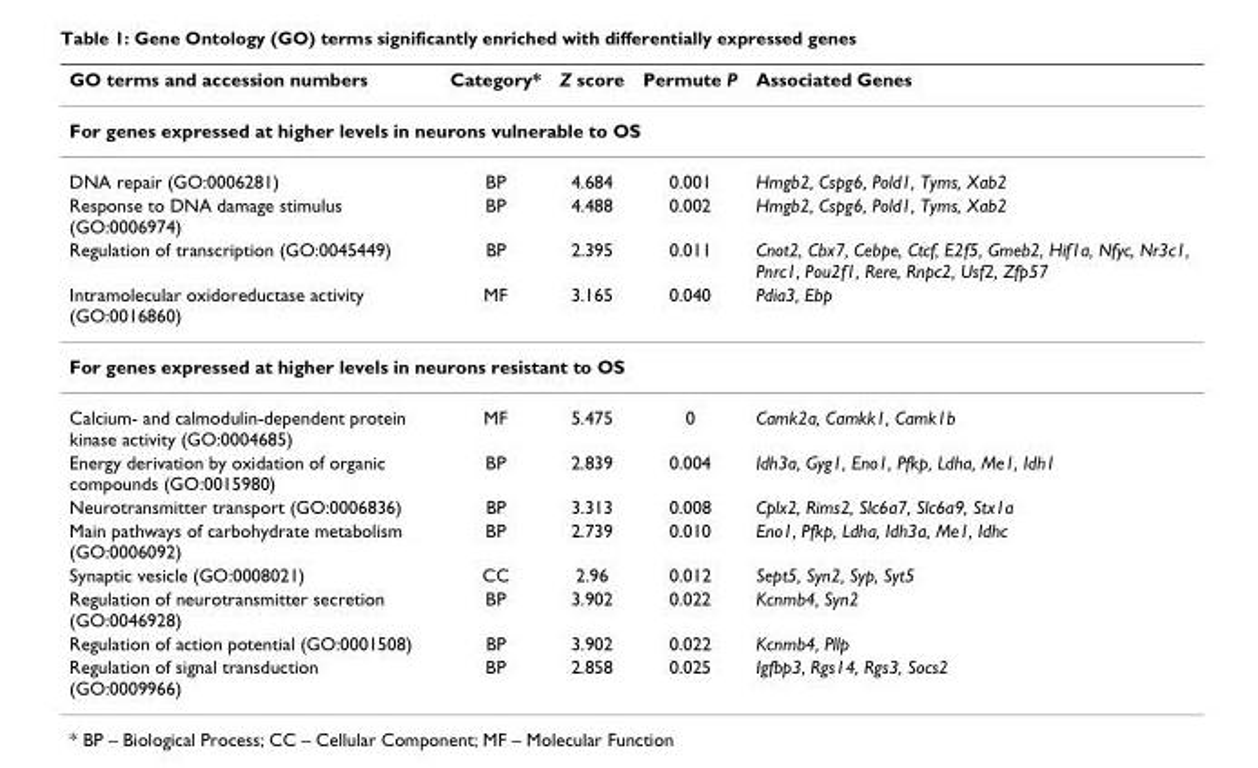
<table><thead><tr><td>GO terms and accession numbers</td><td>Category*</td><td>Z score</td><td>Permute P</td><td>Associated Genes</td></tr></thead><tbody><tr><td colspan="5">For genes expressed at higher levels in neurons vulnerable to OS</td></tr><tr><td>DNA repair (GO:0006281)</td><td>BP</td><td>4.684</td><td>0.001</td><td>Hmgb2, Cspg6, Pold1, Tyms, Xab2</td></tr><tr><td>Response to DNA damage stimulus (GO:0006974)</td><td>BP</td><td>4.488</td><td>0.002</td><td>Hmgb2, Cspg6, Pold1, Tyms, Xab2</td></tr><tr><td>Regulation of transcription (GO:0045449)</td><td>BP</td><td>2.395</td><td>0.011</td><td>Cnot2, Cbx7, Cebpe, Ctcf, E2f5, Gmeb2, Hif1a, Nfyc, Nr3c1, Pnrc1, Pou2f1, Rere, Rnpc2, Usf2, Zfp57</td></tr><tr><td>Intramolecular oxidoreductase activity (GO:0016860)</td><td>MF</td><td>3.165</td><td>0.040</td><td>Pdia3, Ebp</td></tr><tr><td colspan="5">For genes expressed at higher levels in neurons resistant to OS</td></tr><tr><td>Calcium- and calmodulin-dependent protein kinase activity (GO:0004685)</td><td>MF</td><td>5.475</td><td>0</td><td>Camk2a, Camkk1, Camk1b</td></tr><tr><td>Energy derivation by oxidation of organic compounds (GO:0015980)</td><td>BP</td><td>2.839</td><td>0.004</td><td>Idh3a, Gyg1, Eno1, Pfkp, Ldha, Me1, Idh1</td></tr><tr><td>Neurotransmitter transport (GO:0006836)</td><td>BP</td><td>3.313</td><td>0.008</td><td>Cplx2, Rims2, Slc6a7, Slc6a9, Stx1a</td></tr><tr><td>Main pathways of carbohydrate metabolism (GO:0006092)</td><td>BP</td><td>2.739</td><td>0.010</td><td>Eno1, Pfkp, Ldha, Idh3a, Me1, Idhc</td></tr><tr><td>Synaptic vesicle (GO:0008021)</td><td>CC</td><td>2.96</td><td>0.012</td><td>Sept5, Syn2, Syp, Syt5</td></tr><tr><td>Regulation of neurotransmitter secretion (GO:0046928)</td><td>BP</td><td>3.902</td><td>0.022</td><td>Kcnmb4, Syn2</td></tr><tr><td>Regulation of action potential (GO:0001508)</td><td>BP</td><td>3.902</td><td>0.022</td><td>Kcnmb4, Pllp</td></tr><tr><td>Regulation of signal transduction (GO:0009966)</td><td>BP</td><td>2.858</td><td>0.025</td><td>Igfbp3, Rgs14, Rgs3, Socs2</td></tr></tbody></table>